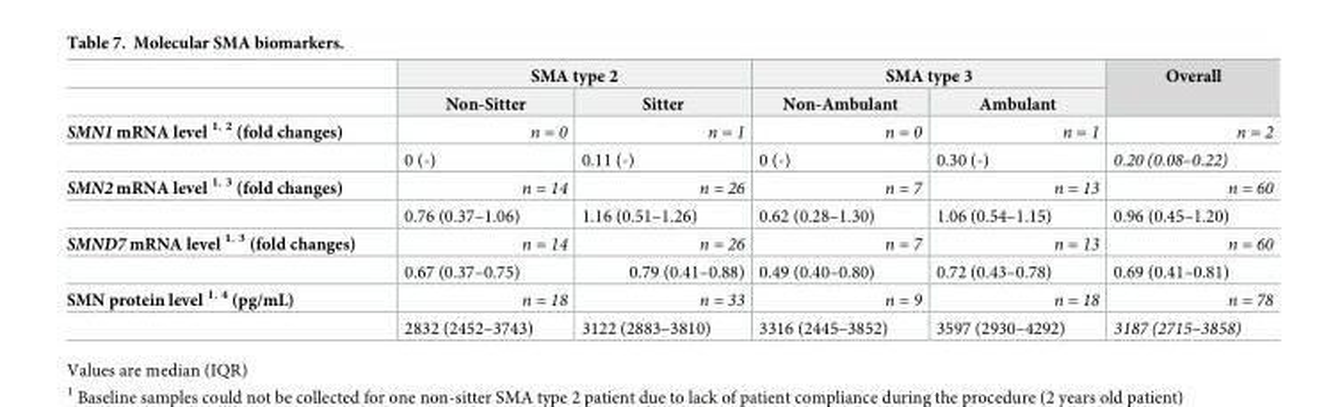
<table><thead><tr><td rowspan="2"></td><td colspan="2">SMA type 2</td><td colspan="2">SMA type 3</td><td rowspan="2">Overall</td></tr><tr><td>Non-Sitter</td><td>Sitter</td><td>Non-Ambulant</td><td>Ambulant</td></tr></thead><tbody><tr><td rowspan="2">SMN1 mRNA level <sup>1, 2</sup> (fold changes)</td><td>n = 0</td><td>n = 1</td><td>n = 0</td><td>n = 1</td><td>n = 2</td></tr><tr><td>0 (-)</td><td>0.11 (-)</td><td>0 (-)</td><td>0.30 (-)</td><td>0.20 (0.08–0.22)</td></tr><tr><td rowspan="2">SMN2 mRNA level <sup>1, 3</sup> (fold changes)</td><td>n = 14</td><td>n = 26</td><td>n = 7</td><td>n = 13</td><td>n = 60</td></tr><tr><td>0.76 (0.37–1.06)</td><td>1.16 (0.51–1.26)</td><td>0.62 (0.28–1.30)</td><td>1.06 (0.54–1.15)</td><td>0.96 (0.45–1.20)</td></tr><tr><td rowspan="2">SMND7 mRNA level <sup>1, 3</sup> (fold changes)</td><td>n = 14</td><td>n = 26</td><td>n = 7</td><td>n = 13</td><td>n = 60</td></tr><tr><td>0.67 (0.37–0.75)</td><td>0.79 (0.41–0.88)</td><td>0.49 (0.40–0.80)</td><td>0.72 (0.43–0.78)</td><td>0.69 (0.41–0.81)</td></tr><tr><td rowspan="2">SMN protein level <sup>1, 4</sup> (pg/mL)</td><td>n = 18</td><td>n = 33</td><td>n = 9</td><td>n = 18</td><td>n = 78</td></tr><tr><td>2832 (2452–3743)</td><td>3122 (2883–3810)</td><td>3316 (2445–3852)</td><td>3597 (2930–4292)</td><td>3187 (2715–3858)</td></tr></tbody></table>